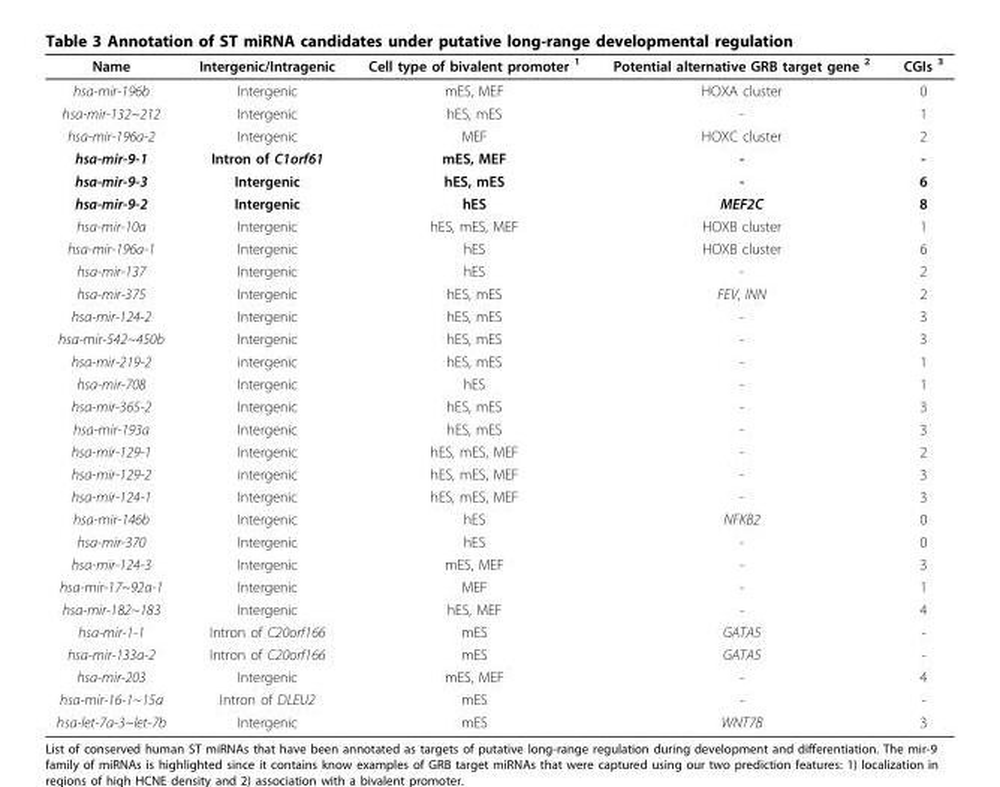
<table><thead><tr><td>Name</td><td>Intergenic/Intragenic</td><td>Cell type of bivalent promoter <sup>1</sup></td><td>Potential alternative GRB target gene <sup>2</sup></td><td>CGIs <sup>3</sup></td></tr></thead><tbody><tr><td>hsa-mir-196b</td><td>Intergenic</td><td>mES, MEF</td><td>HOXA cluster</td><td>0</td></tr><tr><td>hsa-mir-132~212</td><td>Intergenic</td><td>hES, mES</td><td>-</td><td>1</td></tr><tr><td>hsa-mir-196a-2</td><td>Intergenic</td><td>MEF</td><td>HOXC cluster</td><td>2</td></tr><tr><td>hsa-mir-9-1</td><td>Intron of C1orf61</td><td>mES, MEF</td><td>-</td><td>-</td></tr><tr><td>hsa-mir-9-3</td><td>Intergenic</td><td>hES, mES</td><td>-</td><td>6</td></tr><tr><td>hsa-mir-9-2</td><td>Intergenic</td><td>hES</td><td>MEF2C</td><td>8</td></tr><tr><td>hsa-mir-10a</td><td>Intergenic</td><td>hES, mES, MEF</td><td>HOXB cluster</td><td>1</td></tr><tr><td>hsa-mir-196a-1</td><td>Intergenic</td><td>hES</td><td>HOXB cluster</td><td>6</td></tr><tr><td>hsa-mir-137</td><td>Intergenic</td><td>hES</td><td>-</td><td>2</td></tr><tr><td>hsa-mir-375</td><td>Intergenic</td><td>hES, mES</td><td>FEV, INN</td><td>2</td></tr><tr><td>hsa-mir-124-2</td><td>Intergenic</td><td>hES, mES</td><td>-</td><td>3</td></tr><tr><td>hsa-mir-542~450b</td><td>Intergenic</td><td>hES, mES</td><td>-</td><td>3</td></tr><tr><td>hsa-mir-219-2</td><td>intergenic</td><td>hES, mES</td><td>-</td><td>1</td></tr><tr><td>hsa-mir-708</td><td>Intergenic</td><td>hES</td><td>-</td><td>1</td></tr><tr><td>hsa-mir-365-2</td><td>Intergenic</td><td>hES, mES</td><td>-</td><td>3</td></tr><tr><td>hsa-mir-193a</td><td>Intergenic</td><td>hES, mES</td><td>-</td><td>3</td></tr><tr><td>hsa-mir-129-1</td><td>Intergenic</td><td>hES, mES, MEF</td><td>-</td><td>2</td></tr><tr><td>hsa-mir-129-2</td><td>intergenic</td><td>hES, mES, MEF</td><td>-</td><td>3</td></tr><tr><td>hsa-mir-124-1</td><td>Intergenic</td><td>hES, mES, MEF</td><td>-</td><td>3</td></tr><tr><td>hsa-mir-146b</td><td>Intergenic</td><td>hES</td><td>NFKB2</td><td>0</td></tr><tr><td>hsa-mir-370</td><td>Intergenic</td><td>hES</td><td>-</td><td>0</td></tr><tr><td>hsa-mir-124-3</td><td>Intergenic</td><td>mES, MEF</td><td>-</td><td>3</td></tr><tr><td>hsa-mir-17~92a-1</td><td>Intergenic</td><td>MEF</td><td>-</td><td>1</td></tr><tr><td>hsa-mir-182~183</td><td>Intergenic</td><td>hES, MEF</td><td>-</td><td>4</td></tr><tr><td>hsa-mir-1-1</td><td>Intron of C20orf166</td><td>mES</td><td>GATA5</td><td>-</td></tr><tr><td>hsa-mir-133a-2</td><td>Intron of C20orf166</td><td>mES</td><td>GATA5</td><td>-</td></tr><tr><td>hsa-mir-203</td><td>Intergenic</td><td>mES, MEF</td><td>-</td><td>4</td></tr><tr><td>hsa-mir-16-1~15a</td><td>Intron of DLEU2</td><td>mES</td><td>-</td><td>-</td></tr><tr><td>hsa-let-7a-3~let-7b</td><td>Intergenic</td><td>mES</td><td>WNT7B</td><td>3</td></tr></tbody></table>